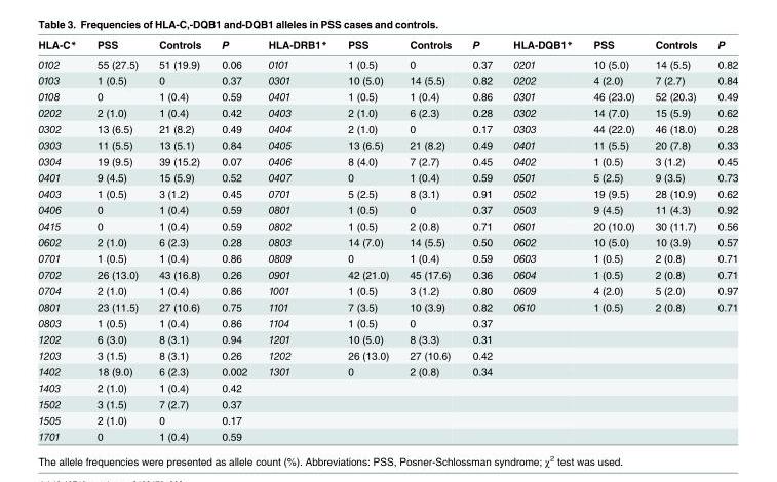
<table><thead><tr><td>HLA-C*</td><td>PSS</td><td>Controls</td><td>P</td><td>HLA-DRB1*</td><td>PSS</td><td>Controls</td><td>P</td><td>HLA-DQB1*</td><td>PSS</td><td>Controls</td><td>P</td></tr></thead><tbody><tr><td>0102</td><td>55 (27.5)</td><td>51 (19.9)</td><td>0.06</td><td>0101</td><td>1 (0.5)</td><td>0</td><td>0.37</td><td>0201</td><td>10 (5.0)</td><td>14 (5.5)</td><td>0.82</td></tr><tr><td>0103</td><td>1 (0.5)</td><td>0</td><td>0.37</td><td>0301</td><td>10 (5.0)</td><td>14 (5.5)</td><td>0.82</td><td>0202</td><td>4 (2.0)</td><td>7 (2.7)</td><td>0.84</td></tr><tr><td>0108</td><td>0</td><td>1 (0.4)</td><td>0.59</td><td>0401</td><td>1 (0.5)</td><td>1 (0.4)</td><td>0.86</td><td>0301</td><td>46 (23.0)</td><td>52 (20.3)</td><td>0.49</td></tr><tr><td>0202</td><td>2 (1.0)</td><td>1 (0.4)</td><td>0.42</td><td>0403</td><td>2 (1.0)</td><td>6 (2.3)</td><td>0.28</td><td>0302</td><td>14 (7.0)</td><td>15 (5.9)</td><td>0.62</td></tr><tr><td>0302</td><td>13 (6.5)</td><td>21 (8.2)</td><td>0.49</td><td>0404</td><td>2 (1.0)</td><td>0</td><td>0.17</td><td>0303</td><td>44 (22.0)</td><td>46 (18.0)</td><td>0.28</td></tr><tr><td>0303</td><td>11 (5.5)</td><td>13 (5.1)</td><td>0.84</td><td>0405</td><td>13 (6.5)</td><td>21 (8.2)</td><td>0.49</td><td>0401</td><td>11 (5.5)</td><td>20 (7.8)</td><td>0.33</td></tr><tr><td>0304</td><td>19 (9.5)</td><td>39 (15.2)</td><td>0.07</td><td>0406</td><td>8 (4.0)</td><td>7 (2.7)</td><td>0.45</td><td>0402</td><td>1 (0.5)</td><td>3 (1.2)</td><td>0.45</td></tr><tr><td>0401</td><td>9 (4.5)</td><td>15 (5.9)</td><td>0.52</td><td>0407</td><td>0</td><td>1 (0.4)</td><td>0.59</td><td>0501</td><td>5 (2.5)</td><td>9 (3.5)</td><td>0.73</td></tr><tr><td>0403</td><td>1 (0.5)</td><td>3 (1.2)</td><td>0.45</td><td>0701</td><td>5 (2.5)</td><td>8 (3.1)</td><td>0.91</td><td>0502</td><td>19 (9.5)</td><td>28 (10.9)</td><td>0.62</td></tr><tr><td>0406</td><td>0</td><td>1 (0.4)</td><td>0.59</td><td>0801</td><td>1 (0.5)</td><td>0</td><td>0.37</td><td>0503</td><td>9 (4.5)</td><td>11 (4.3)</td><td>0.92</td></tr><tr><td>0415</td><td>0</td><td>1 (0.4)</td><td>0.59</td><td>0802</td><td>1 (0.5)</td><td>2 (0.8)</td><td>0.71</td><td>0601</td><td>20 (10.0)</td><td>30 (11.7)</td><td>0.56</td></tr><tr><td>0602</td><td>2 (1.0)</td><td>6 (2.3)</td><td>0.28</td><td>0803</td><td>14 (7.0)</td><td>14 (5.5)</td><td>0.50</td><td>0602</td><td>10 (5.0)</td><td>10 (3.9)</td><td>0.57</td></tr><tr><td>0701</td><td>1 (0.5)</td><td>1 (0.4)</td><td>0.86</td><td>0809</td><td>0</td><td>1 (0.4)</td><td>0.59</td><td>0603</td><td>1 (0.5)</td><td>2 (0.8)</td><td>0.71</td></tr><tr><td>0702</td><td>26 (13.0)</td><td>43 (16.8)</td><td>0.26</td><td>0901</td><td>42 (21.0)</td><td>45 (17.6)</td><td>0.36</td><td>0604</td><td>1 (0.5)</td><td>2 (0.8)</td><td>0.71</td></tr><tr><td>0704</td><td>2 (1.0)</td><td>1 (0.4)</td><td>0.86</td><td>1001</td><td>1 (0.5)</td><td>3 (1.2)</td><td>0.80</td><td>0609</td><td>4 (2.0)</td><td>5 (2.0)</td><td>0.97</td></tr><tr><td>0801</td><td>23 (11.5)</td><td>27 (10.6)</td><td>0.75</td><td>1101</td><td>7 (3.5)</td><td>10 (3.9)</td><td>0.82</td><td>0610</td><td>1 (0.5)</td><td>2 (0.8)</td><td>0.71</td></tr><tr><td>0803</td><td>1 (0.5)</td><td>1 (0.4)</td><td>0.86</td><td>1104</td><td>1 (0.5)</td><td>0</td><td>0.37</td><td></td><td></td><td></td><td></td></tr><tr><td>1202</td><td>6 (3.0)</td><td>8 (3.1)</td><td>0.94</td><td>1201</td><td>10 (5.0)</td><td>8 (3.3)</td><td>0.31</td><td></td><td></td><td></td><td></td></tr><tr><td>1203</td><td>3 (1.5)</td><td>8 (3.1)</td><td>0.26</td><td>1202</td><td>26 (13.0)</td><td>27 (10.6)</td><td>0.42</td><td></td><td></td><td></td><td></td></tr><tr><td>1402</td><td>18 (9.0)</td><td>6 (2.3)</td><td>0.002</td><td>1301</td><td>0</td><td>2 (0.8)</td><td>0.34</td><td></td><td></td><td></td><td></td></tr><tr><td>1403</td><td>2 (1.0)</td><td>1 (0.4)</td><td>0.42</td><td></td><td></td><td></td><td></td><td></td><td></td><td></td><td></td></tr><tr><td>1502</td><td>3 (1.5)</td><td>7 (2.7)</td><td>0.37</td><td></td><td></td><td></td><td></td><td></td><td></td><td></td><td></td></tr><tr><td>1505</td><td>2 (1.0)</td><td>0</td><td>0.17</td><td></td><td></td><td></td><td></td><td></td><td></td><td></td><td></td></tr><tr><td>1701</td><td>0</td><td>1 (0.4)</td><td>0.59</td><td></td><td></td><td></td><td></td><td></td><td></td><td></td><td></td></tr></tbody></table>